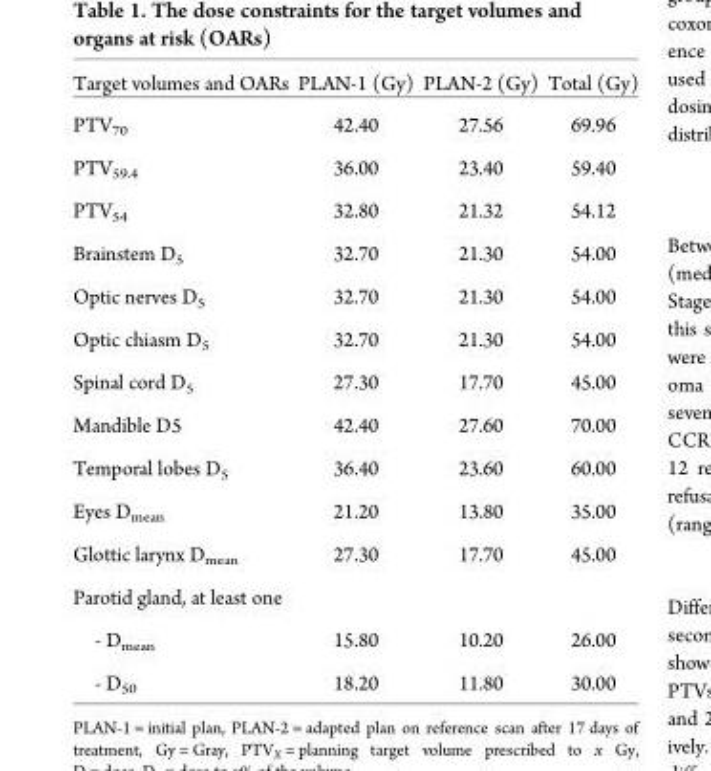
<table><thead><tr><td>Target volumes and OARs</td><td>PLAN-1 (Gy)</td><td>PLAN-2 (Gy)</td><td>Total (Gy)</td></tr></thead><tbody><tr><td>PTV<sub>70</sub></td><td>42.40</td><td>27.56</td><td>69.96</td></tr><tr><td>PTV<sub>59.4</sub></td><td>36.00</td><td>23.40</td><td>59.40</td></tr><tr><td>PTV<sub>54</sub></td><td>32.80</td><td>21.32</td><td>54.12</td></tr><tr><td>Brainstem D<sub>5</sub></td><td>32.70</td><td>21.30</td><td>54.00</td></tr><tr><td>Optic nerves D<sub>5</sub></td><td>32.70</td><td>21.30</td><td>54.00</td></tr><tr><td>Optic chiasm D<sub>5</sub></td><td>32.70</td><td>21.30</td><td>54.00</td></tr><tr><td>Spinal cord D<sub>5</sub></td><td>27.30</td><td>17.70</td><td>45.00</td></tr><tr><td>Mandible D5</td><td>42.40</td><td>27.60</td><td>70.00</td></tr><tr><td>Temporal lobes D<sub>5</sub></td><td>36.40</td><td>23.60</td><td>60.00</td></tr><tr><td>Eyes D<sub>mean</sub></td><td>21.20</td><td>13.80</td><td>35.00</td></tr><tr><td>Glottic larynx D<sub>mean</sub></td><td>27.30</td><td>17.70</td><td>45.00</td></tr><tr><td colspan="4">Parotid gland, at least one</td></tr><tr><td>- D<sub>mean</sub></td><td>15.80</td><td>10.20</td><td>26.00</td></tr><tr><td>- D<sub>50</sub></td><td>18.20</td><td>11.80</td><td>30.00</td></tr></tbody></table>